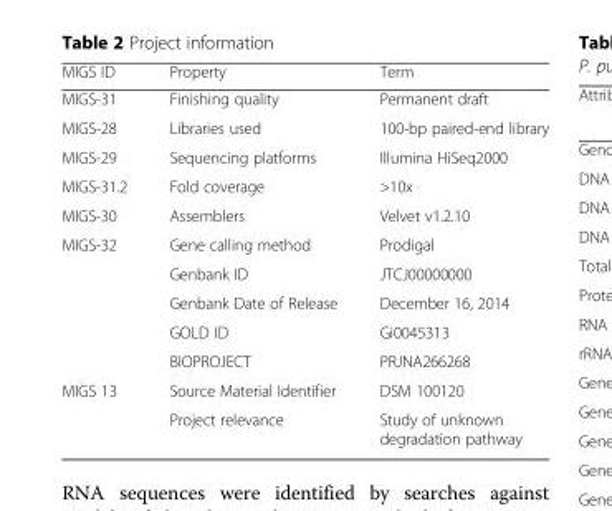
<table><thead><tr><td>MIGS ID</td><td>Property</td><td>Term</td></tr></thead><tbody><tr><td>MIGS-31</td><td>Finishing quality</td><td>Permanent draft</td></tr><tr><td>MIGS-28</td><td>Libraries used</td><td>100-bp paired-end library</td></tr><tr><td>MIGS-29</td><td>Sequencing platforms</td><td>Illumina HiSeq2000</td></tr><tr><td>MIGS-31.2</td><td>Fold coverage</td><td>&gt;10x</td></tr><tr><td>MIGS-30</td><td>Assemblers</td><td>Velvet v1.2.10</td></tr><tr><td rowspan="5">MIGS-32</td><td>Gene calling method</td><td>Prodigal</td></tr><tr><td>Genbank ID</td><td>JTCJ00000000</td></tr><tr><td>Genbank Date of Release</td><td>December 16, 2014</td></tr><tr><td>GOLD ID</td><td>Gi0045313</td></tr><tr><td>BIOPROJECT</td><td>PRJNA266268</td></tr><tr><td rowspan="2">MIGS 13</td><td>Source Material Identifier</td><td>DSM 100120</td></tr><tr><td>Project relevance</td><td>Study of unknown degradation pathway</td></tr></tbody></table>